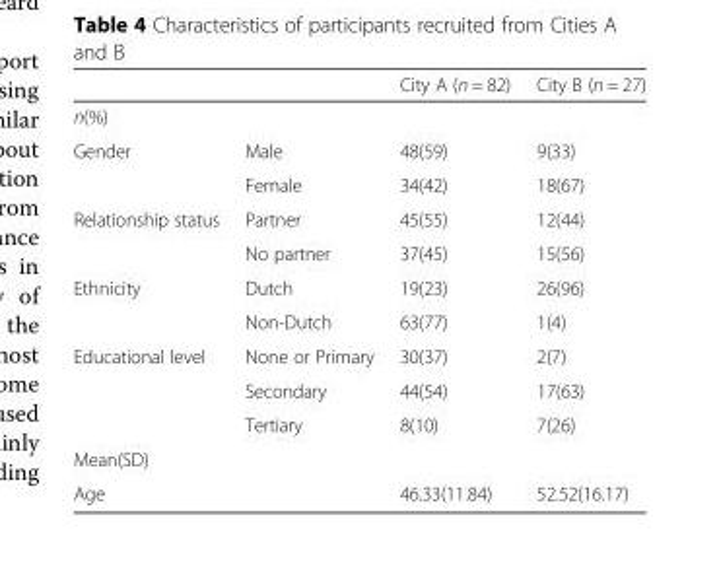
<table><thead><tr><td></td><td></td><td>City A (n = 82)</td><td>City B (n = 27)</td></tr></thead><tbody><tr><td colspan="4">n(%)</td></tr><tr><td rowspan="2">Gender</td><td>Male</td><td>48(59)</td><td>9(33)</td></tr><tr><td>Female</td><td>34(42)</td><td>18(67)</td></tr><tr><td rowspan="2">Relationship status</td><td>Partner</td><td>45(55)</td><td>12(44)</td></tr><tr><td>No partner</td><td>37(45)</td><td>15(56)</td></tr><tr><td rowspan="2">Ethnicity</td><td>Dutch</td><td>19(23)</td><td>26(96)</td></tr><tr><td>Non-Dutch</td><td>63(77)</td><td>1(4)</td></tr><tr><td rowspan="3">Educational level</td><td>None or Primary</td><td>30(37)</td><td>2(7)</td></tr><tr><td>Secondary</td><td>44(54)</td><td>17(63)</td></tr><tr><td>Tertiary</td><td>8(10)</td><td>7(26)</td></tr><tr><td colspan="4">Mean(SD)</td></tr><tr><td>Age</td><td></td><td>46.33(11.84)</td><td>52.52(16.17)</td></tr></tbody></table>